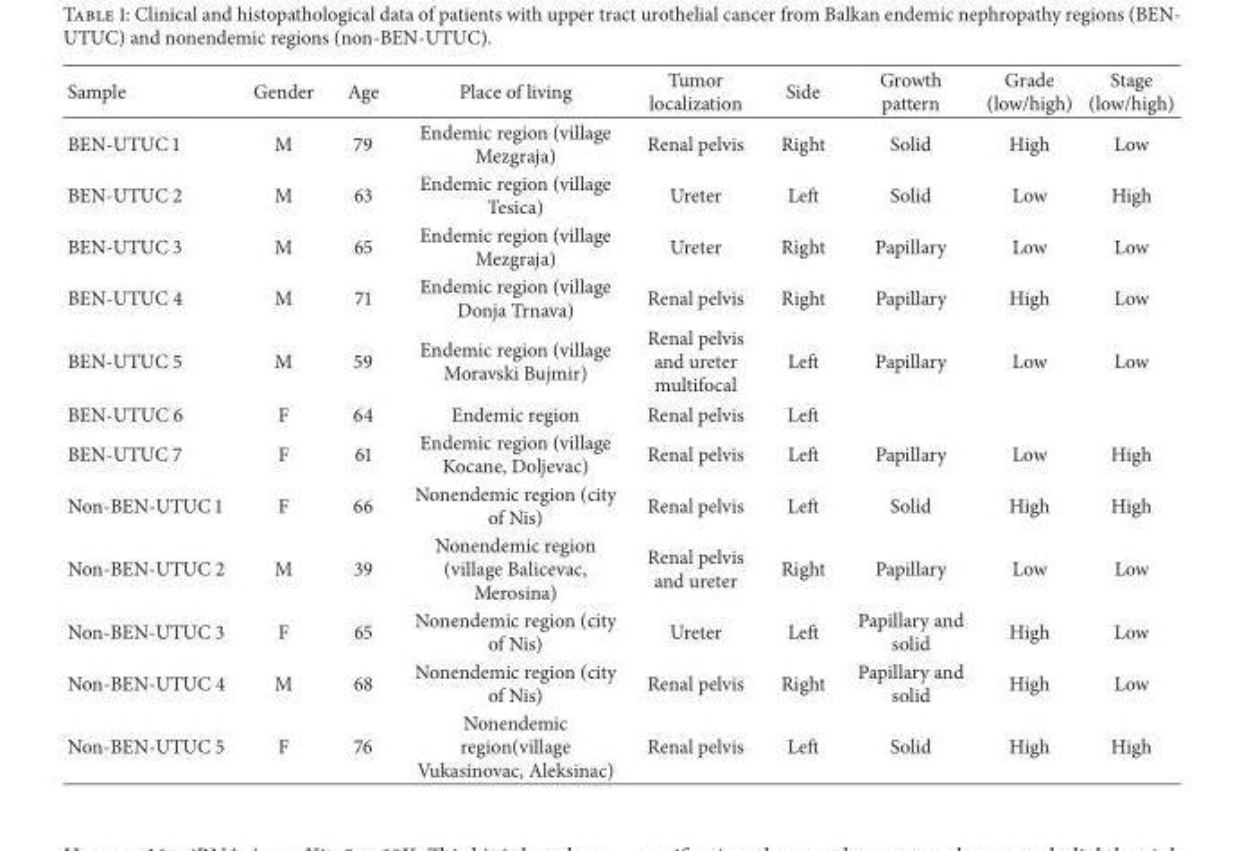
<table><thead><tr><td>Sample</td><td>Gender</td><td>Age</td><td>Place of living</td><td>Tumor localization</td><td>Side</td><td>Growth pattern</td><td>Grade (low/high)</td><td>Stage (low/high)</td></tr></thead><tbody><tr><td>BEN-UTUC 1</td><td>M</td><td>79</td><td>Endemic region (village Mezgraja)</td><td>Renal pelvis</td><td>Right</td><td>Solid</td><td>High</td><td>Low</td></tr><tr><td>BEN-UTUC 2</td><td>M</td><td>63</td><td>Endemic region (village Tesica)</td><td>Ureter</td><td>Left</td><td>Solid</td><td>Low</td><td>High</td></tr><tr><td>BEN-UTUC 3</td><td>M</td><td>65</td><td>Endemic region (village Mezgraja)</td><td>Ureter</td><td>Right</td><td>Papillary</td><td>Low</td><td>Low</td></tr><tr><td>BEN-UTUC 4</td><td>M</td><td>71</td><td>Endemic region (village Donja Trnava)</td><td>Renal pelvis</td><td>Right</td><td>Papillary</td><td>High</td><td>Low</td></tr><tr><td>BEN-UTUC 5</td><td>M</td><td>59</td><td>Endemic region (village Moravski Bujmir)</td><td>Renal pelvis and ureter multifocal</td><td>Left</td><td>Papillary</td><td>Low</td><td>Low</td></tr><tr><td>BEN-UTUC 6</td><td>F</td><td>64</td><td>Endemic region</td><td>Renal pelvis</td><td>Left</td><td></td><td></td><td></td></tr><tr><td>BEN-UTUC 7</td><td>F</td><td>61</td><td>Endemic region (village Kocane, Doljevac)</td><td>Renal pelvis</td><td>Left</td><td>Papillary</td><td>Low</td><td>High</td></tr><tr><td>Non-BEN-UTUC 1</td><td>F</td><td>66</td><td>Nonendemic region (city of Nis)</td><td>Renal pelvis</td><td>Left</td><td>Solid</td><td>High</td><td>High</td></tr><tr><td>Non-BEN-UTUC 2</td><td>M</td><td>39</td><td>Nonendemic region (village Balicevac, Merosina)</td><td>Renal pelvis and ureter</td><td>Right</td><td>Papillary</td><td>Low</td><td>Low</td></tr><tr><td>Non-BEN-UTUC 3</td><td>F</td><td>65</td><td>Nonendemic region (city of Nis)</td><td>Ureter</td><td>Left</td><td>Papillary and solid</td><td>High</td><td>Low</td></tr><tr><td>Non-BEN-UTUC 4</td><td>M</td><td>68</td><td>Nonendemic region (city of Nis)</td><td>Renal pelvis</td><td>Right</td><td>Papillary and solid</td><td>High</td><td>Low</td></tr><tr><td>Non-BEN-UTUC 5</td><td>F</td><td>76</td><td>Nonendemic region(village Vukasinovac, Aleksinac)</td><td>Renal pelvis</td><td>Left</td><td>Solid</td><td>High</td><td>High</td></tr></tbody></table>